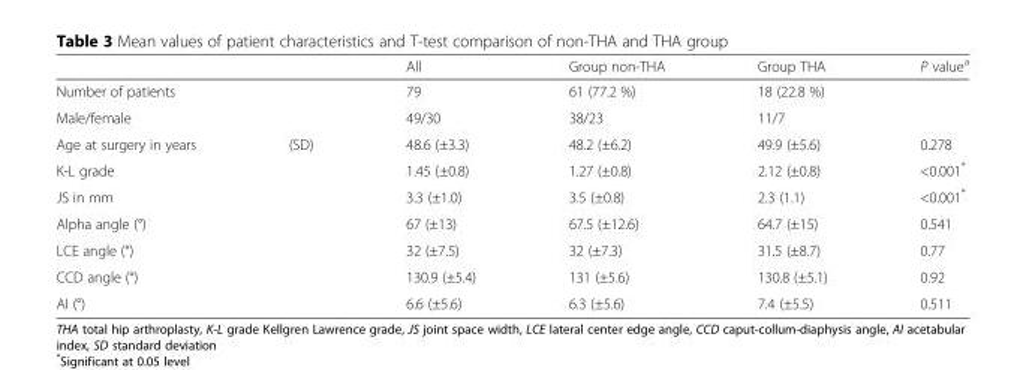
<table><thead><tr><td></td><td></td><td>All</td><td>Group non-THA</td><td>Group THA</td><td>P value<sup>a</sup></td></tr></thead><tbody><tr><td>Number of patients</td><td></td><td>79</td><td>61 (77.2 %)</td><td>18 (22.8 %)</td><td></td></tr><tr><td>Male/female</td><td></td><td>49/30</td><td>38/23</td><td>11/7</td><td></td></tr><tr><td>Age at surgery in years</td><td rowspan="7">(SD)</td><td>48.6 (±3.3)</td><td>48.2 (±6.2)</td><td>49.9 (±5.6)</td><td>0.278</td></tr><tr><td>K-L grade</td><td>1.45 (±0.8)</td><td>1.27 (±0.8)</td><td>2.12 (±0.8)</td><td>&lt;0.001*</td></tr><tr><td>JS in mm</td><td>3.3 (±1.0)</td><td>3.5 (±0.8)</td><td>2.3 (1.1)</td><td>&lt;0.001*</td></tr><tr><td>Alpha angle (°)</td><td>67 (±13)</td><td>67.5 (±12.6)</td><td>64.7 (±15)</td><td>0.541</td></tr><tr><td>LCE angle (°)</td><td>32 (±7.5)</td><td>32 (±7.3)</td><td>31.5 (±8.7)</td><td>0.77</td></tr><tr><td>CCD angle (°)</td><td>130.9 (±5.4)</td><td>131 (±5.6)</td><td>130.8 (±5.1)</td><td>0.92</td></tr><tr><td>AI (°)</td><td>6.6 (±5.6)</td><td>6.3 (±5.6)</td><td>7.4 (±5.5)</td><td>0.511</td></tr></tbody></table>